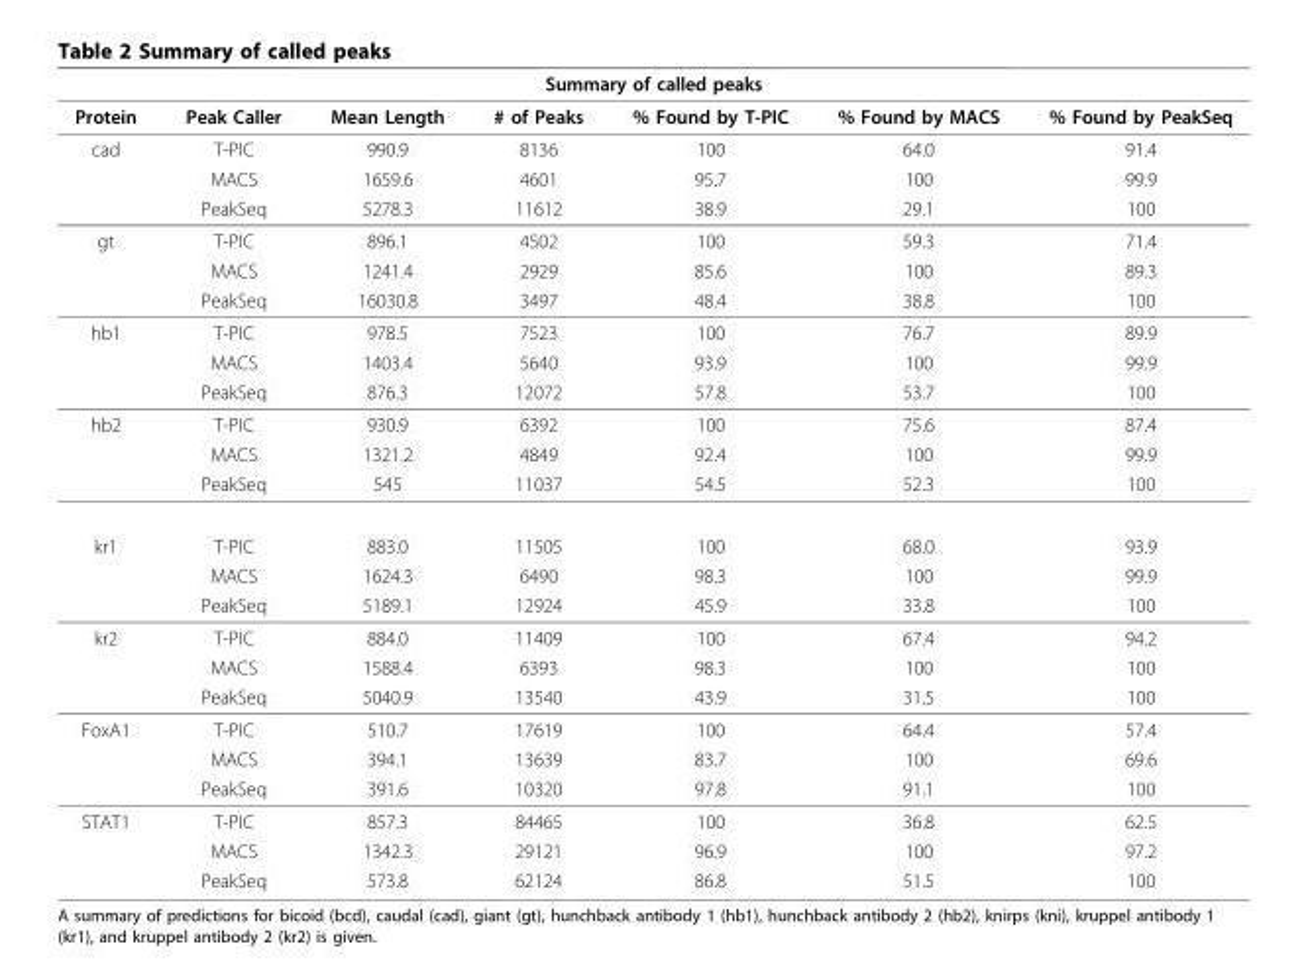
<table><thead><tr><td colspan="7">Summary of called peaks</td></tr><tr><td>Protein</td><td>Peak Caller</td><td>Mean Length</td><td># of Peaks</td><td>% Found by T-PIC</td><td>% Found by MACS</td><td>% Found by PeakSeq</td></tr></thead><tbody><tr><td rowspan="3">cad</td><td>T-PIC</td><td>990.9</td><td>8136</td><td>100</td><td>64.0</td><td>91.4</td></tr><tr><td>MACS</td><td>1659.6</td><td>4601</td><td>95.7</td><td>100</td><td>99.9</td></tr><tr><td>PeakSeq</td><td>5278.3</td><td>11612</td><td>38.9</td><td>29.1</td><td>100</td></tr><tr><td rowspan="3">gt</td><td>T-PIC</td><td>896.1</td><td>4502</td><td>100</td><td>59.3</td><td>71.4</td></tr><tr><td>MACS</td><td>1241.4</td><td>2929</td><td>85.6</td><td>100</td><td>89.3</td></tr><tr><td>PeakSeq</td><td>16030.8</td><td>3497</td><td>48.4</td><td>38.8</td><td>100</td></tr><tr><td rowspan="3">hb1</td><td>T-PIC</td><td>978.5</td><td>7523</td><td>100</td><td>76.7</td><td>89.9</td></tr><tr><td>MACS</td><td>1403.4</td><td>5640</td><td>93.9</td><td>100</td><td>99.9</td></tr><tr><td>PeakSeq</td><td>876.3</td><td>12072</td><td>57.8</td><td>53.7</td><td>100</td></tr><tr><td rowspan="3">hb2</td><td>T-PIC</td><td>930.9</td><td>6392</td><td>100</td><td>75.6</td><td>87.4</td></tr><tr><td>MACS</td><td>1321.2</td><td>4849</td><td>92.4</td><td>100</td><td>99.9</td></tr><tr><td>PeakSeq</td><td>545</td><td>11037</td><td>54.5</td><td>52.3</td><td>100</td></tr><tr><td rowspan="3">kr1</td><td>T-PIC</td><td>883.0</td><td>11505</td><td>100</td><td>68.0</td><td>93.9</td></tr><tr><td>MACS</td><td>1624.3</td><td>6490</td><td>98.3</td><td>100</td><td>99.9</td></tr><tr><td>PeakSeq</td><td>5189.1</td><td>12924</td><td>45.9</td><td>33.8</td><td>100</td></tr><tr><td rowspan="3">kr2</td><td>T-PIC</td><td>884.0</td><td>11409</td><td>100</td><td>67.4</td><td>94.2</td></tr><tr><td>MACS</td><td>1588.4</td><td>6393</td><td>98.3</td><td>100</td><td>100</td></tr><tr><td>PeakSeq</td><td>5040.9</td><td>13540</td><td>43.9</td><td>31.5</td><td>100</td></tr><tr><td rowspan="3">FoxA1</td><td>T-PIC</td><td>510.7</td><td>17619</td><td>100</td><td>64.4</td><td>57.4</td></tr><tr><td>MACS</td><td>394.1</td><td>13639</td><td>83.7</td><td>100</td><td>69.6</td></tr><tr><td>PeakSeq</td><td>391.6</td><td>10320</td><td>97.8</td><td>91.1</td><td>100</td></tr><tr><td rowspan="3">STAT1</td><td>T-PIC</td><td>857.3</td><td>84465</td><td>100</td><td>36.8</td><td>62.5</td></tr><tr><td>MACS</td><td>1342.3</td><td>29121</td><td>96.9</td><td>100</td><td>97.2</td></tr><tr><td>PeakSeq</td><td>573.8</td><td>62124</td><td>86.8</td><td>51.5</td><td>100</td></tr></tbody></table>